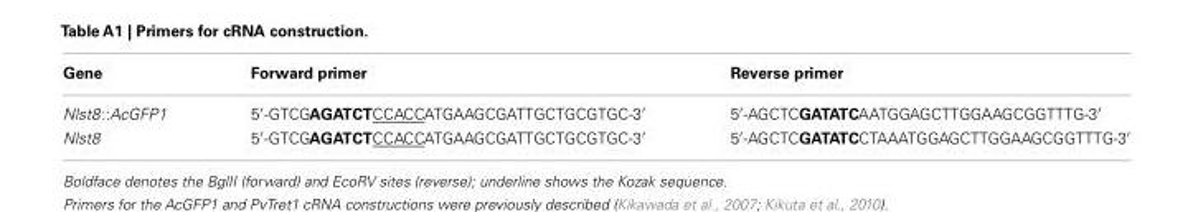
<table><thead><tr><td>Gene</td><td>Forward primer</td><td>Reverse primer</td></tr></thead><tbody><tr><td>Nlst8::AcGFP1</td><td>5′-GTCGAGATCTCCACCATGAAGCGATTGCTGCGTGC-3′</td><td>5′-AGCTCGATATCAATGGAGCTTGGAAGCGGTTTG-3′</td></tr><tr><td>Nlst8</td><td>5′-GTCGAGATCTCCACCATGAAGCGATTGCTGCGTGC-3′</td><td>5′-AGCTCGATATCCTAAATGGAGCTTGGAAGCGGTTTG-3′</td></tr></tbody></table>